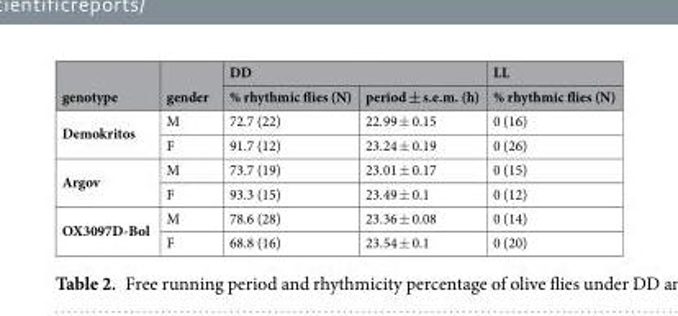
<table><thead><tr><td rowspan="2">genotype</td><td rowspan="2">gender</td><td colspan="2">DD</td><td rowspan="2">LL % rhythmic flies (N)</td></tr><tr><td>% rhythmic flies (N)</td><td>period ± s.e.m. (h)</td></tr></thead><tbody><tr><td rowspan="2">Demokritos</td><td>M</td><td>72.7 (22)</td><td>22.99 ± 0.15</td><td>0 (16)</td></tr><tr><td>F</td><td>91.7 (12)</td><td>23.24 ± 0.19</td><td>0 (26)</td></tr><tr><td rowspan="2">Argov</td><td>M</td><td>73.7 (19)</td><td>23.01 ± 0.17</td><td>0 (15)</td></tr><tr><td>F</td><td>93.3 (15)</td><td>23.49 ± 0.1</td><td>0 (12)</td></tr><tr><td rowspan="2">OX3097D-Bol</td><td>M</td><td>78.6 (28)</td><td>23.36 ± 0.08</td><td>0 (14)</td></tr><tr><td>F</td><td>68.8 (16)</td><td>23.54 ± 0.1</td><td>0 (20)</td></tr></tbody></table>